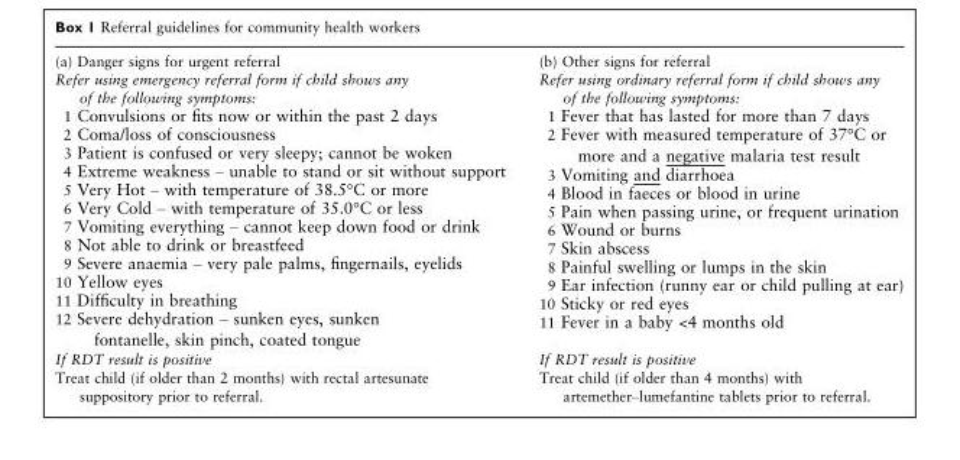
<table><tbody><tr><td>(a) Danger signs for urgent referral</td><td>(b) Other signs for referral</td></tr><tr><td>Refer using emergency referral form if child shows any of the following symptoms: 1 Convulsions or fits now or within the past 2 days 2 Coma/loss of consciousness 3 Patient is confused or very sleepy; cannot be woken 4 Extreme weakness – unable to stand or sit without support 5 Very Hot – with temperature of 38.5°C or more 6 Very Cold – with temperature of 35.0°C or less 7 Vomiting everything – cannot keep down food or drink 8 Not able to drink or breastfeed 9 Severe anaemia – very pale palms, fingernails, eyelids 10 Yellow eyes 11 Difficulty in breathing 12 Severe dehydration – sunken eyes, sunken fontanelle, skin pinch, coated tongue</td><td>Refer using ordinary referral form if child shows any of the following symptoms: 1 Fever that has lasted for more than 7 days 2 Fever with measured temperature of 37°C or more and a negative malaria test result 3 Vomiting and diarrhoea 4 Blood in faeces or blood in urine 5 Pain when passing urine, or frequent urination 6 Wound or burns 7 Skin abscess 8 Painful swelling or lumps in the skin 9 Ear infection (runny ear or child pulling at ear) 10 Sticky or red eyes 11 Fever in a baby &lt;4 months old</td></tr><tr><td>If RDT result is positive</td><td>If RDT result is positive</td></tr><tr><td>Treat child (if older than 2 months) with rectal artesunate suppository prior to referral.</td><td>Treat child (if older than 4 months) with artemether–lumefantine tablets prior to referral.</td></tr></tbody></table>